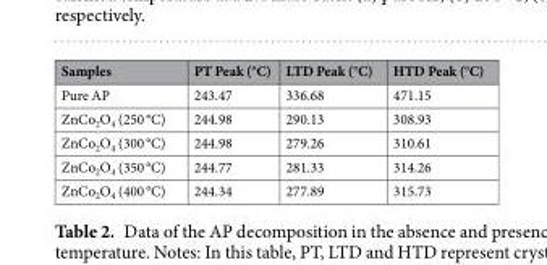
<table><thead><tr><td>Samples</td><td>PT Peak (°C)</td><td>LTD Peak (°C)</td><td>HTD Peak (°C)</td></tr></thead><tbody><tr><td>Pure AP</td><td>243.47</td><td>336.68</td><td>471.15</td></tr><tr><td>ZnCo<sub>2</sub>O<sub>4</sub> (250 °C)</td><td>244.98</td><td>290.13</td><td>308.93</td></tr><tr><td>ZnCo<sub>2</sub>O<sub>4</sub> (300 °C)</td><td>244.98</td><td>279.26</td><td>310.61</td></tr><tr><td>ZnCo<sub>2</sub>O<sub>4</sub> (350 °C)</td><td>244.77</td><td>281.33</td><td>314.26</td></tr><tr><td>ZnCo<sub>2</sub>O<sub>4</sub> (400 °C)</td><td>244.34</td><td>277.89</td><td>315.73</td></tr></tbody></table>